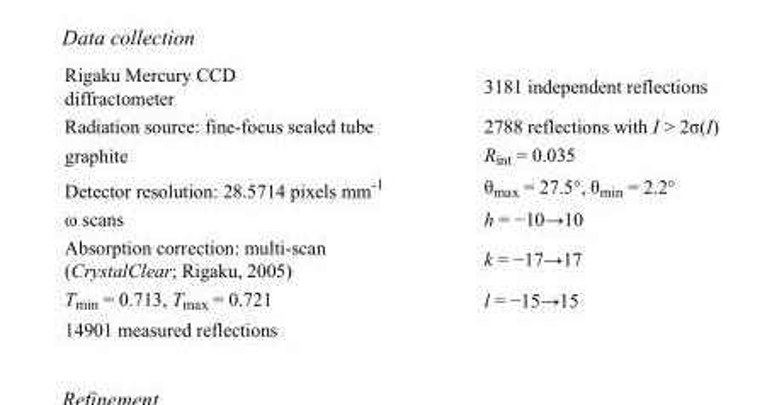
<table><tbody><tr><td>Rigaku Mercury CCD diffractometer</td><td>3181 independent reflections</td></tr><tr><td>Radiation source: fine-focus sealed tube</td><td>2788 reflections with I &gt; 2σ(I)</td></tr><tr><td>graphite</td><td>R<sub>int</sub> = 0.035</td></tr><tr><td>Detector resolution: 28.5714 pixels mm<sup>-1</sup></td><td>θ<sub>max</sub> = 27.5°, θ<sub>min</sub> = 2.2°</td></tr><tr><td>ω scans</td><td>h = −10→10</td></tr><tr><td>Absorption correction: multi-scan (CrystalClear; Rigaku, 2005)</td><td>k = −17→17</td></tr><tr><td>T<sub>min</sub> = 0.713, T<sub>max</sub> = 0.721</td><td>l = −15→15</td></tr><tr><td>14901 measured reflections</td><td></td></tr></tbody></table>